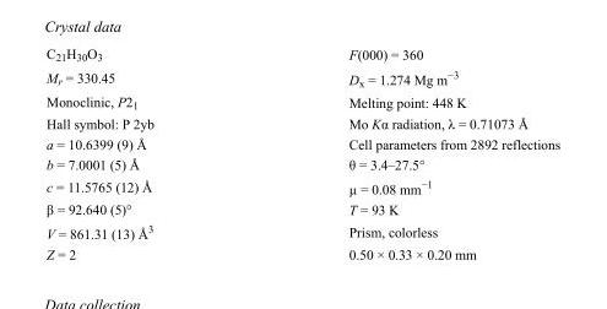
<table><tbody><tr><td>C<sub>21</sub>H<sub>30</sub>O<sub>3</sub></td><td>F(000) = 360</td></tr><tr><td>M<sub>r</sub> = 330.45</td><td>D<sub>x</sub> = 1.274 Mg m<sup>−3</sup></td></tr><tr><td>Monoclinic, P2<sub>1</sub></td><td>Melting point: 448 K</td></tr><tr><td>Hall symbol: P 2yb</td><td>Mo Kα radiation, λ = 0.71073 Å</td></tr><tr><td>a = 10.6399 (9) Å</td><td>Cell parameters from 2892 reflections</td></tr><tr><td>b = 7.0001 (5) Å</td><td>θ = 3.4–27.5°</td></tr><tr><td>c = 11.5765 (12) Å</td><td>µ = 0.08 mm<sup>−1</sup></td></tr><tr><td>β = 92.640 (5)°</td><td>T = 93 K</td></tr><tr><td>V = 861.31 (13) Å<sup>3</sup></td><td>Prism, colorless</td></tr><tr><td>Z = 2</td><td>0.50 × 0.33 × 0.20 mm</td></tr></tbody></table>